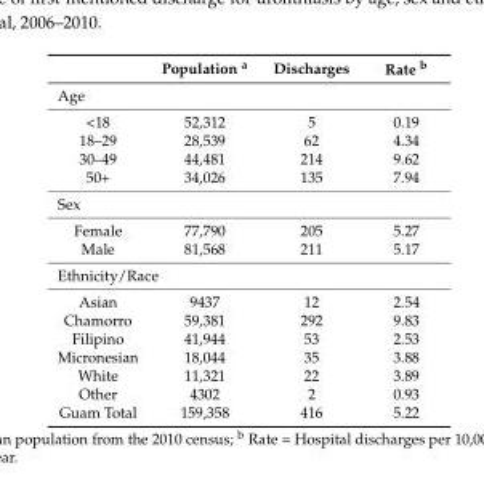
<table><thead><tr><td></td><td>Population <sup>a</sup></td><td>Discharges</td><td>Rate <sup>b</sup></td></tr></thead><tbody><tr><td colspan="4">Age</td></tr><tr><td>&lt;18</td><td>52,312</td><td>5</td><td>0.19</td></tr><tr><td>18–29</td><td>28,539</td><td>62</td><td>4.34</td></tr><tr><td>30–49</td><td>44,481</td><td>214</td><td>9.62</td></tr><tr><td>50+</td><td>34,026</td><td>135</td><td>7.94</td></tr><tr><td colspan="4">Sex</td></tr><tr><td>Female</td><td>77,790</td><td>205</td><td>5.27</td></tr><tr><td>Male</td><td>81,568</td><td>211</td><td>5.17</td></tr><tr><td colspan="4">Ethnicity/Race</td></tr><tr><td>Asian</td><td>9437</td><td>12</td><td>2.54</td></tr><tr><td>Chamorro</td><td>59,381</td><td>292</td><td>9.83</td></tr><tr><td>Filipino</td><td>41,944</td><td>53</td><td>2.53</td></tr><tr><td>Micronesian</td><td>18,044</td><td>35</td><td>3.88</td></tr><tr><td>White</td><td>11,321</td><td>22</td><td>3.89</td></tr><tr><td>Other</td><td>4302</td><td>2</td><td>0.93</td></tr><tr><td>Guam Total</td><td>159,358</td><td>416</td><td>5.22</td></tr></tbody></table>